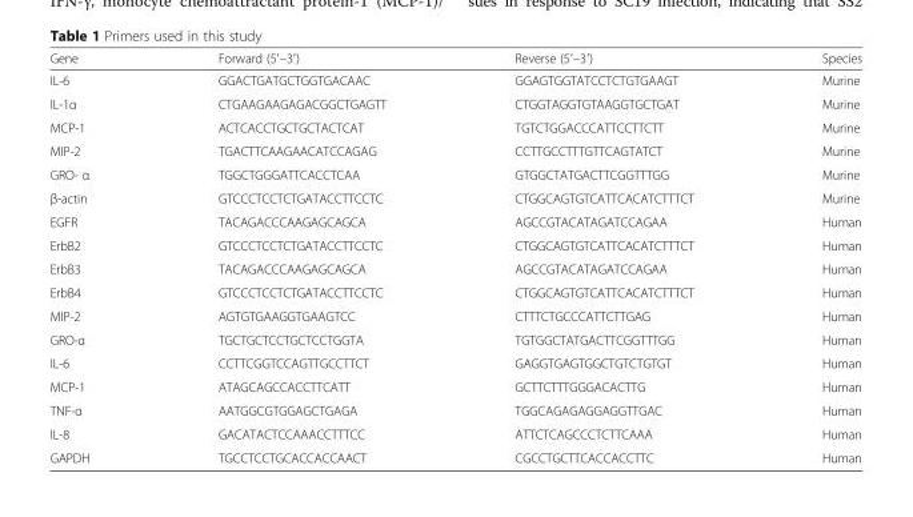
<table><thead><tr><td>Gene</td><td>Forward (5′–3′)</td><td>Reverse (5′–3′)</td><td>Species</td></tr></thead><tbody><tr><td>IL-6</td><td>GGACTGATGCTGGTGACAAC</td><td>GGAGTGGTATCCTCTGTGAAGT</td><td>Murine</td></tr><tr><td>IL-1α</td><td>CTGAAGAAGAGACGGCTGAGTT</td><td>CTGGTAGGTGTAAGGTGCTGAT</td><td>Murine</td></tr><tr><td>MCP-1</td><td>ACTCACCTGCTGCTACTCAT</td><td>TGTCTGGACCCATTCCTTCTT</td><td>Murine</td></tr><tr><td>MIP-2</td><td>TGACTTCAAGAACATCCAGAG</td><td>CCTTGCCTTTGTTCAGTATCT</td><td>Murine</td></tr><tr><td>GRO- α</td><td>TGGCTGGGATTCACCTCAA</td><td>GTGGCTATGACTTCGGTTTGG</td><td>Murine</td></tr><tr><td>β-actin</td><td>GTCCCTCCTCTGATACCTTCCTC</td><td>CTGGCAGTGTCATTCACATCTTTCT</td><td>Murine</td></tr><tr><td>EGFR</td><td>TACAGACCCAAGAGCAGCA</td><td>AGCCGTACATAGATCCAGAA</td><td>Human</td></tr><tr><td>ErbB2</td><td>GTCCCTCCTCTGATACCTTCCTC</td><td>CTGGCAGTGTCATTCACATCTTTCT</td><td>Human</td></tr><tr><td>ErbB3</td><td>TACAGACCCAAGAGCAGCA</td><td>AGCCGTACATAGATCCAGAA</td><td>Human</td></tr><tr><td>ErbB4</td><td>GTCCCTCCTCTGATACCTTCCTC</td><td>CTGGCAGTGTCATTCACATCTTTCT</td><td>Human</td></tr><tr><td>MIP-2</td><td>AGTGTGAAGGTGAAGTCC</td><td>CTTTCTGCCCATTCTTGAG</td><td>Human</td></tr><tr><td>GRO-α</td><td>TGCTGCTCCTGCTCCTGGTA</td><td>TGTGGCTATGACTTCGGTTTGG</td><td>Human</td></tr><tr><td>IL-6</td><td>CCTTCGGTCCAGTTGCCTTCT</td><td>GAGGTGAGTGGCTGTCTGTGT</td><td>Human</td></tr><tr><td>MCP-1</td><td>ATAGCAGCCACCTTCATT</td><td>GCTTCTTTGGGACACTTG</td><td>Human</td></tr><tr><td>TNF-α</td><td>AATGGCGTGGAGCTGAGA</td><td>TGGCAGAGAGGAGGTTGAC</td><td>Human</td></tr><tr><td>IL-8</td><td>GACATACTCCAAACCTTTCC</td><td>ATTCTCAGCCCTCTTCAAA</td><td>Human</td></tr><tr><td>GAPDH</td><td>TGCCTCCTGCACCACCAACT</td><td>CGCCTGCTTCACCACCTTC</td><td>Human</td></tr></tbody></table>